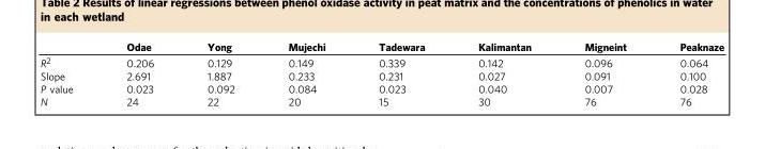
<table><thead><tr><td></td><td>Odae</td><td>Yong</td><td>Mujechi</td><td>Tadewara</td><td>Kalimantan</td><td>Migneint</td><td>Peaknaze</td></tr></thead><tbody><tr><td>R<sup>2</sup></td><td>0.206</td><td>0.129</td><td>0.149</td><td>0.339</td><td>0.142</td><td>0.096</td><td>0.064</td></tr><tr><td>Slope</td><td>2.691</td><td>1.887</td><td>0.233</td><td>0.231</td><td>0.027</td><td>0.091</td><td>0.100</td></tr><tr><td>P value</td><td>0.023</td><td>0.092</td><td>0.084</td><td>0.023</td><td>0.040</td><td>0.007</td><td>0.028</td></tr><tr><td>N</td><td>24</td><td>22</td><td>20</td><td>15</td><td>30</td><td>76</td><td>76</td></tr></tbody></table>